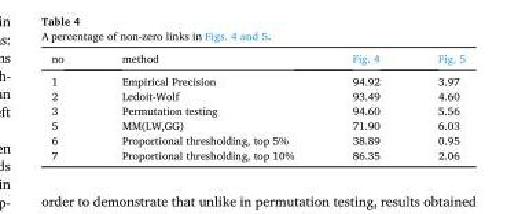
<table><thead><tr><td>no</td><td>method</td><td>Fig. 4</td><td>Fig. 5</td></tr></thead><tbody><tr><td>1</td><td>Empirical Precision</td><td>94.92</td><td>3.97</td></tr><tr><td>2</td><td>Ledoit-Wolf</td><td>93.49</td><td>4.60</td></tr><tr><td>3</td><td>Permutation testing</td><td>94.60</td><td>5.56</td></tr><tr><td>5</td><td>MM(LW,GG)</td><td>71.90</td><td>6.03</td></tr><tr><td>6</td><td>Proportional thresholding, top 5%</td><td>38.89</td><td>0.95</td></tr><tr><td>7</td><td>Proportional thresholding, top 10%</td><td>86.35</td><td>2.06</td></tr></tbody></table>